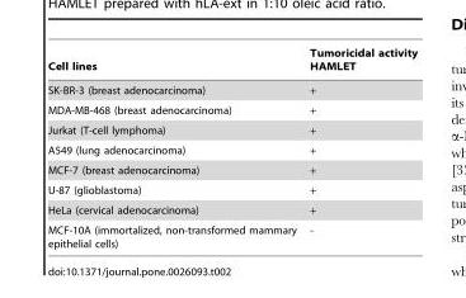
<table><thead><tr><td>Cell lines</td><td>Tumoricidal activity HAMLET</td></tr></thead><tbody><tr><td>SK-BR-3 (breast adenocarcinoma)</td><td>+</td></tr><tr><td>MDA-MB-468 (breast adenocarcinoma)</td><td>+</td></tr><tr><td>Jurkat (T-cell lymphoma)</td><td>+</td></tr><tr><td>A549 (lung adenocarcinoma)</td><td>+</td></tr><tr><td>MCF-7 (breast adenocarcinoma)</td><td>+</td></tr><tr><td>U-87 (glioblastoma)</td><td>+</td></tr><tr><td>HeLa (cervical adenocarcinoma)</td><td>+</td></tr><tr><td>MCF-10A (immortalized, non-transformed mammary epithelial cells)</td><td>-</td></tr></tbody></table>